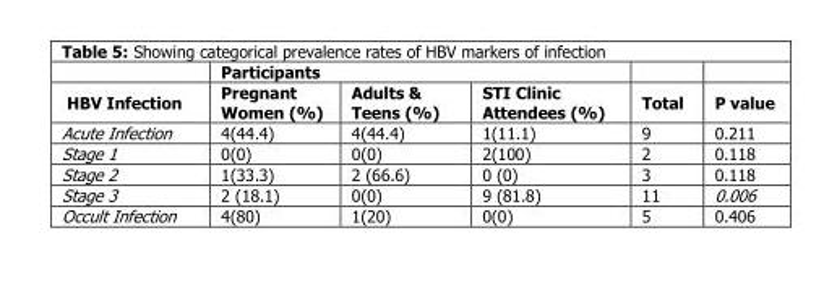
<table><thead><tr><td rowspan="2">HBV Infection</td><td colspan="3">Participants</td><td rowspan="2">Total</td><td rowspan="2">P value</td></tr><tr><td>Pregnant Women (%)</td><td>Adults &amp; Teens (%)</td><td>STI Clinic Attendees (%)</td></tr></thead><tbody><tr><td>Acute Infection</td><td>4(44.4)</td><td>4(44.4)</td><td>1(11.1)</td><td>9</td><td>0.211</td></tr><tr><td>Stage 1</td><td>0(0)</td><td>0(0)</td><td>2(100)</td><td>2</td><td>0.118</td></tr><tr><td>Stage 2</td><td>1(33.3)</td><td>2 (66.6)</td><td>0 (0)</td><td>3</td><td>0.118</td></tr><tr><td>Stage 3</td><td>2 (18.1)</td><td>0(0)</td><td>9 (81.8)</td><td>11</td><td>0.006</td></tr><tr><td>Occult Infection</td><td>4(80)</td><td>1(20)</td><td>0(0)</td><td>5</td><td>0.406</td></tr></tbody></table>